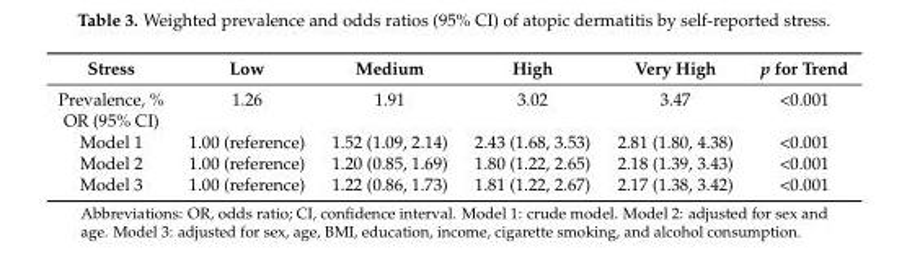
<table><thead><tr><td>Stress</td><td>Low</td><td>Medium</td><td>High</td><td>Very High</td><td>p for Trend</td></tr></thead><tbody><tr><td>Prevalence, %</td><td>1.26</td><td>1.91</td><td>3.02</td><td>3.47</td><td>&lt;0.001</td></tr><tr><td colspan="6">OR (95% CI)</td></tr><tr><td>Model 1</td><td>1.00 (reference)</td><td>1.52 (1.09, 2.14)</td><td>2.43 (1.68, 3.53)</td><td>2.81 (1.80, 4.38)</td><td>&lt;0.001</td></tr><tr><td>Model 2</td><td>1.00 (reference)</td><td>1.20 (0.85, 1.69)</td><td>1.80 (1.22, 2.65)</td><td>2.18 (1.39, 3.43)</td><td>&lt;0.001</td></tr><tr><td>Model 3</td><td>1.00 (reference)</td><td>1.22 (0.86, 1.73)</td><td>1.81 (1.22, 2.67)</td><td>2.17 (1.38, 3.42)</td><td>&lt;0.001</td></tr></tbody></table>